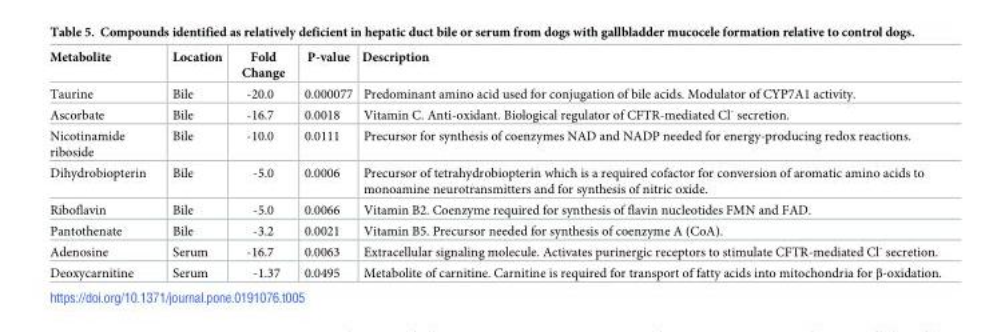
<table><thead><tr><td>Metabolite</td><td>Location</td><td>Fold Change</td><td>P-value</td><td>Description</td></tr></thead><tbody><tr><td>Taurine</td><td>Bile</td><td>-20.0</td><td>0.000077</td><td>Predominant amino acid used for conjugation of bile acids. Modulator of CYP7A1 activity.</td></tr><tr><td>Ascorbate</td><td>Bile</td><td>-16.7</td><td>0.0018</td><td>Vitamin C. Anti-oxidant. Biological regulator of CFTR-mediated Cl<sup>-</sup> secretion.</td></tr><tr><td>Nicotinamide riboside</td><td>Bile</td><td>-10.0</td><td>0.0111</td><td>Precursor for synthesis of coenzymes NAD and NADP needed for energy-producing redox reactions.</td></tr><tr><td>Dihydrobiopterin</td><td>Bile</td><td>-5.0</td><td>0.0006</td><td>Precursor of tetrahydrobiopterin which is a required cofactor for conversion of aromatic amino acids to monoamine neurotransmitters and for synthesis of nitric oxide.</td></tr><tr><td>Riboflavin</td><td>Bile</td><td>-5.0</td><td>0.0066</td><td>Vitamin B2. Coenzyme required for synthesis of flavin nucleotides FMN and FAD.</td></tr><tr><td>Pantothenate</td><td>Bile</td><td>-3.2</td><td>0.0021</td><td>Vitamin B5. Precursor needed for synthesis of coenzyme A (CoA).</td></tr><tr><td>Adenosine</td><td>Serum</td><td>-16.7</td><td>0.0063</td><td>Extracellular signaling molecule. Activates purinergic receptors to stimulate CFTR-mediated Cl<sup>-</sup> secretion.</td></tr><tr><td>Deoxycarnitine</td><td>Serum</td><td>-1.37</td><td>0.0495</td><td>Metabolite of carnitine. Carnitine is required for transport of fatty acids into mitochondria for β-oxidation.</td></tr></tbody></table>